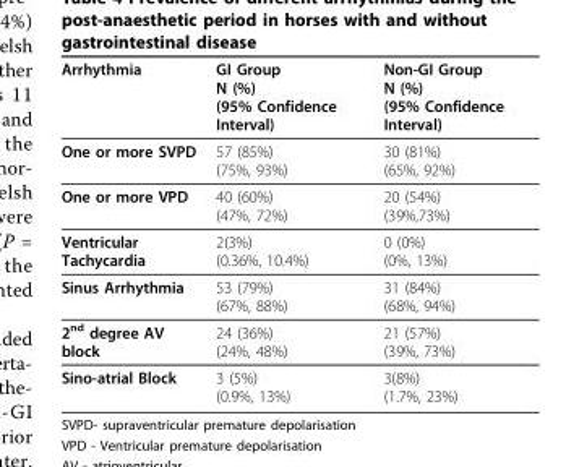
<table><thead><tr><td>Arrhythmia</td><td>GI Group N (%) (95% Confidence Interval)</td><td>Non-GI Group N (%) (95% Confidence Interval)</td></tr></thead><tbody><tr><td>One or more SVPD</td><td>57 (85%) (75%, 93%)</td><td>30 (81%) (65%, 92%)</td></tr><tr><td>One or more VPD</td><td>40 (60%) (47%, 72%)</td><td>20 (54%) (39%,73%)</td></tr><tr><td>Ventricular Tachycardia</td><td>2(3%) (0.36%, 10.4%)</td><td>0 (0%) (0%, 13%)</td></tr><tr><td>Sinus Arrhythmia</td><td>53 (79%) (67%, 88%)</td><td>31 (84%) (68%, 94%)</td></tr><tr><td>2<sup>nd</sup> degree AV block</td><td>24 (36%) (24%, 48%)</td><td>21 (57%) (39%, 73%)</td></tr><tr><td>Sino-atrial Block</td><td>3 (5%) (0.9%, 13%)</td><td>3(8%) (1.7%, 23%)</td></tr></tbody></table>